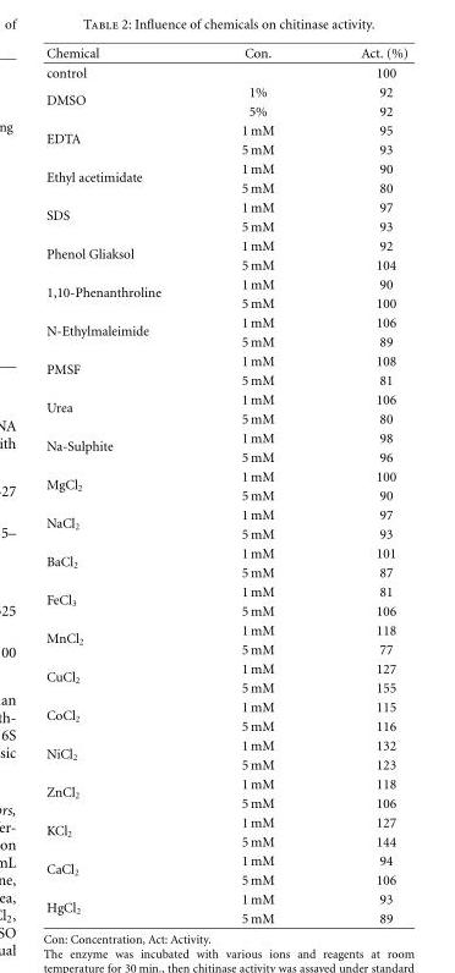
<table><thead><tr><td>Chemical</td><td>Con.</td><td>Act. (%)</td></tr></thead><tbody><tr><td>control</td><td></td><td>100</td></tr><tr><td rowspan="2">DMSO</td><td>1%</td><td>92</td></tr><tr><td>5%</td><td>92</td></tr><tr><td rowspan="2">EDTA</td><td>1 mM</td><td>95</td></tr><tr><td>5 mM</td><td>93</td></tr><tr><td rowspan="2">Ethyl acetimidate</td><td>1 mM</td><td>90</td></tr><tr><td>5 mM</td><td>80</td></tr><tr><td rowspan="2">SDS</td><td>1 mM</td><td>97</td></tr><tr><td>5 mM</td><td>93</td></tr><tr><td rowspan="2">Phenol Gliaksol</td><td>1 mM</td><td>92</td></tr><tr><td>5 mM</td><td>104</td></tr><tr><td rowspan="2">1,10-Phenanthroline</td><td>1 mM</td><td>90</td></tr><tr><td>5 mM</td><td>100</td></tr><tr><td rowspan="2">N-Ethylmaleimide</td><td>1 mM</td><td>106</td></tr><tr><td>5 mM</td><td>89</td></tr><tr><td rowspan="2">PMSF</td><td>1 mM</td><td>108</td></tr><tr><td>5 mM</td><td>81</td></tr><tr><td rowspan="2">Urea</td><td>1 mM</td><td>106</td></tr><tr><td>5 mM</td><td>80</td></tr><tr><td rowspan="2">Na-Sulphite</td><td>1 mM</td><td>98</td></tr><tr><td>5 mM</td><td>96</td></tr><tr><td rowspan="2">MgCl<sub>2</sub></td><td>1 mM</td><td>100</td></tr><tr><td>5 mM</td><td>90</td></tr><tr><td rowspan="2">NaCl<sub>2</sub></td><td>1 mM</td><td>97</td></tr><tr><td>5 mM</td><td>93</td></tr><tr><td rowspan="2">BaCl<sub>2</sub></td><td>1 mM</td><td>101</td></tr><tr><td>5 mM</td><td>87</td></tr><tr><td rowspan="2">FeCl<sub>3</sub></td><td>1 mM</td><td>81</td></tr><tr><td>5 mM</td><td>106</td></tr><tr><td rowspan="2">MnCl<sub>2</sub></td><td>1 mM</td><td>118</td></tr><tr><td>5 mM</td><td>77</td></tr><tr><td rowspan="2">CuCl<sub>2</sub></td><td>1 mM</td><td>127</td></tr><tr><td>5 mM</td><td>155</td></tr><tr><td rowspan="2">CoCl<sub>2</sub></td><td>1 mM</td><td>115</td></tr><tr><td>5 mM</td><td>116</td></tr><tr><td rowspan="2">NiCl<sub>2</sub></td><td>1 mM</td><td>132</td></tr><tr><td>5 mM</td><td>123</td></tr><tr><td rowspan="2">ZnCl<sub>2</sub></td><td>1 mM</td><td>118</td></tr><tr><td>5 mM</td><td>106</td></tr><tr><td rowspan="2">KCl<sub>2</sub></td><td>1 mM</td><td>127</td></tr><tr><td>5 mM</td><td>144</td></tr><tr><td rowspan="2">CaCl<sub>2</sub></td><td>1 mM</td><td>94</td></tr><tr><td>5 mM</td><td>106</td></tr><tr><td rowspan="2">HgCl<sub>2</sub></td><td>1 mM</td><td>93</td></tr><tr><td>5 mM</td><td>89</td></tr></tbody></table>